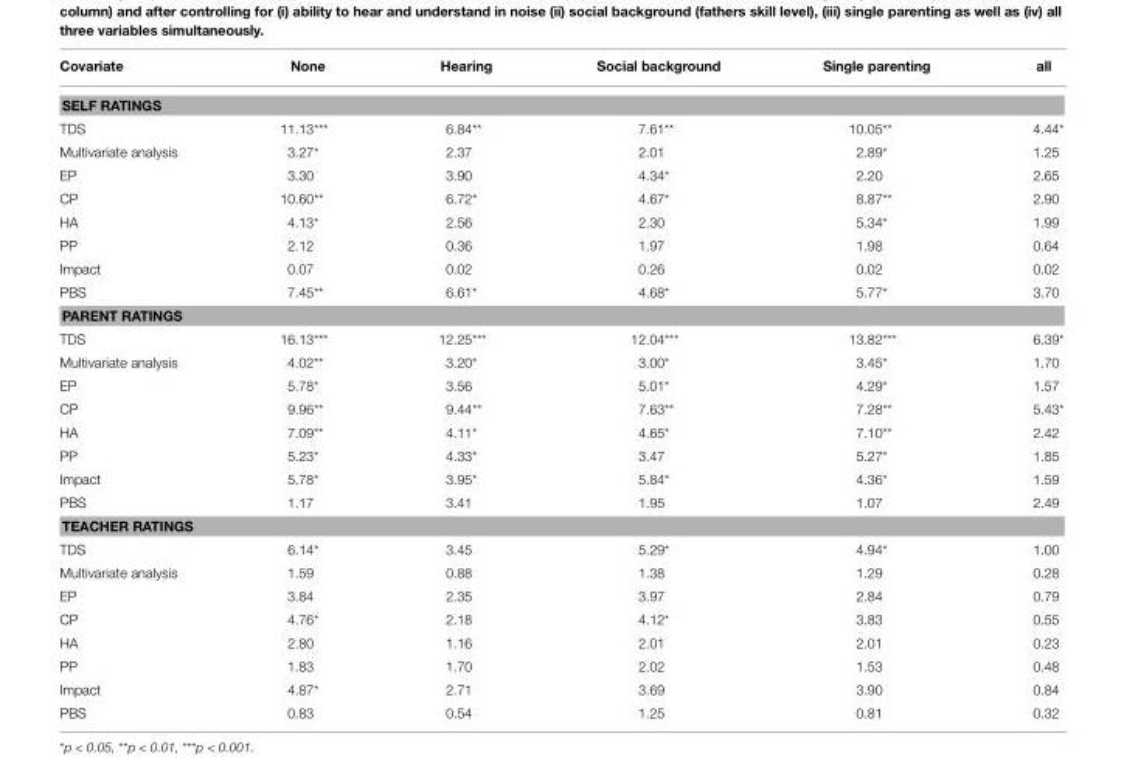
<table><thead><tr><td>Covariate</td><td>None</td><td>Hearing</td><td>Social background</td><td>Single parenting</td><td>all</td></tr></thead><tbody><tr><td colspan="6">SELF RATINGS</td></tr><tr><td>TDS</td><td>11.13***</td><td>6.84**</td><td>7.61**</td><td>10.05**</td><td>4.44*</td></tr><tr><td>Multivariate analysis</td><td>3.27*</td><td>2.37</td><td>2.01</td><td>2.89*</td><td>1.25</td></tr><tr><td>EP</td><td>3.30</td><td>3.90</td><td>4.34*</td><td>2.20</td><td>2.65</td></tr><tr><td>CP</td><td>10.60**</td><td>6.72*</td><td>4.67*</td><td>8.87**</td><td>2.90</td></tr><tr><td>HA</td><td>4.13*</td><td>2.56</td><td>2.30</td><td>5.34*</td><td>1.99</td></tr><tr><td>PP</td><td>2.12</td><td>0.36</td><td>1.97</td><td>1.98</td><td>0.64</td></tr><tr><td>Impact</td><td>0.07</td><td>0.02</td><td>0.26</td><td>0.02</td><td>0.02</td></tr><tr><td>PBS</td><td>7.45**</td><td>6.61*</td><td>4.68*</td><td>5.77*</td><td>3.70</td></tr><tr><td colspan="6">PARENT RATINGS</td></tr><tr><td>TDS</td><td>16.13***</td><td>12.25***</td><td>12.04***</td><td>13.82***</td><td>6.39*</td></tr><tr><td>Multivariate analysis</td><td>4.02**</td><td>3.20*</td><td>3.00*</td><td>3.45*</td><td>1.70</td></tr><tr><td>EP</td><td>5.78*</td><td>3.56</td><td>5.01*</td><td>4.29*</td><td>1.57</td></tr><tr><td>CP</td><td>9.96**</td><td>9.44**</td><td>7.63**</td><td>7.28**</td><td>5.43*</td></tr><tr><td>HA</td><td>7.09**</td><td>4.11*</td><td>4.65*</td><td>7.10**</td><td>2.42</td></tr><tr><td>PP</td><td>5.23*</td><td>4.33*</td><td>3.47</td><td>5.27*</td><td>1.85</td></tr><tr><td>Impact</td><td>5.78*</td><td>3.95*</td><td>5.84*</td><td>4.36*</td><td>1.59</td></tr><tr><td>PBS</td><td>1.17</td><td>3.41</td><td>1.95</td><td>1.07</td><td>2.49</td></tr><tr><td colspan="6">TEACHER RATINGS</td></tr><tr><td>TDS</td><td>6.14*</td><td>3.45</td><td>5.29*</td><td>4.94*</td><td>1.00</td></tr><tr><td>Multivariate analysis</td><td>1.59</td><td>0.88</td><td>1.38</td><td>1.29</td><td>0.28</td></tr><tr><td>EP</td><td>3.84</td><td>2.35</td><td>3.97</td><td>2.84</td><td>0.79</td></tr><tr><td>CP</td><td>4.76*</td><td>2.18</td><td>4.12*</td><td>3.83</td><td>0.55</td></tr><tr><td>HA</td><td>2.80</td><td>1.16</td><td>2.01</td><td>2.01</td><td>0.23</td></tr><tr><td>PP</td><td>1.83</td><td>1.70</td><td>2.02</td><td>1.53</td><td>0.48</td></tr><tr><td>Impact</td><td>4.87*</td><td>2.71</td><td>3.69</td><td>3.90</td><td>0.84</td></tr><tr><td>PBS</td><td>0.83</td><td>0.54</td><td>1.25</td><td>0.81</td><td>0.32</td></tr></tbody></table>